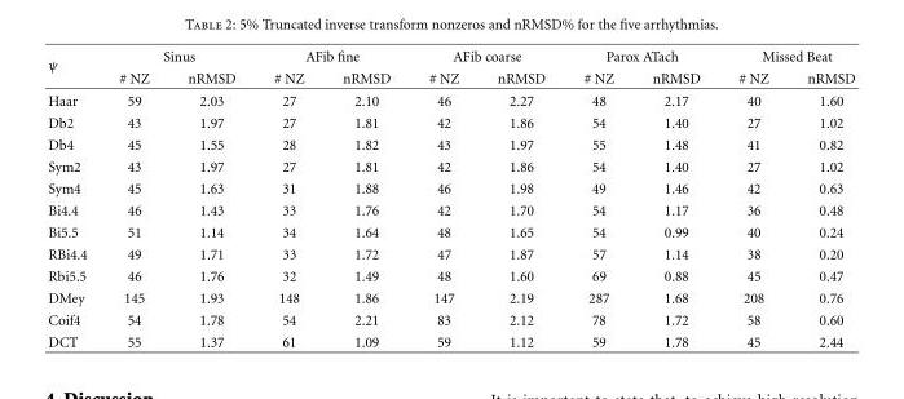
<table><thead><tr><td rowspan="2">ψ</td><td colspan="2">Sinus</td><td colspan="2">AFib fine</td><td colspan="2">AFib coarse</td><td colspan="2">Parox ATach</td><td colspan="2">Missed Beat</td></tr><tr><td># NZ</td><td>nRMSD</td><td># NZ</td><td>nRMSD</td><td># NZ</td><td>nRMSD</td><td># NZ</td><td>nRMSD</td><td># NZ</td><td>nRMSD</td></tr></thead><tbody><tr><td>Haar</td><td>59</td><td>2.03</td><td>27</td><td>2.10</td><td>46</td><td>2.27</td><td>48</td><td>2.17</td><td>40</td><td>1.60</td></tr><tr><td>Db2</td><td>43</td><td>1.97</td><td>27</td><td>1.81</td><td>42</td><td>1.86</td><td>54</td><td>1.40</td><td>27</td><td>1.02</td></tr><tr><td>Db4</td><td>45</td><td>1.55</td><td>28</td><td>1.82</td><td>43</td><td>1.97</td><td>55</td><td>1.48</td><td>41</td><td>0.82</td></tr><tr><td>Sym2</td><td>43</td><td>1.97</td><td>27</td><td>1.81</td><td>42</td><td>1.86</td><td>54</td><td>1.40</td><td>27</td><td>1.02</td></tr><tr><td>Sym4</td><td>45</td><td>1.63</td><td>31</td><td>1.88</td><td>46</td><td>1.98</td><td>49</td><td>1.46</td><td>42</td><td>0.63</td></tr><tr><td>Bi4.4</td><td>46</td><td>1.43</td><td>33</td><td>1.76</td><td>42</td><td>1.70</td><td>54</td><td>1.17</td><td>36</td><td>0.48</td></tr><tr><td>Bi5.5</td><td>51</td><td>1.14</td><td>34</td><td>1.64</td><td>48</td><td>1.65</td><td>54</td><td>0.99</td><td>40</td><td>0.24</td></tr><tr><td>RBi4.4</td><td>49</td><td>1.71</td><td>33</td><td>1.72</td><td>47</td><td>1.87</td><td>57</td><td>1.14</td><td>38</td><td>0.20</td></tr><tr><td>Rbi5.5</td><td>46</td><td>1.76</td><td>32</td><td>1.49</td><td>48</td><td>1.60</td><td>69</td><td>0.88</td><td>45</td><td>0.47</td></tr><tr><td>DMey</td><td>145</td><td>1.93</td><td>148</td><td>1.86</td><td>147</td><td>2.19</td><td>287</td><td>1.68</td><td>208</td><td>0.76</td></tr><tr><td>Coif4</td><td>54</td><td>1.78</td><td>54</td><td>2.21</td><td>83</td><td>2.12</td><td>78</td><td>1.72</td><td>58</td><td>0.60</td></tr><tr><td>DCT</td><td>55</td><td>1.37</td><td>61</td><td>1.09</td><td>59</td><td>1.12</td><td>59</td><td>1.78</td><td>45</td><td>2.44</td></tr></tbody></table>